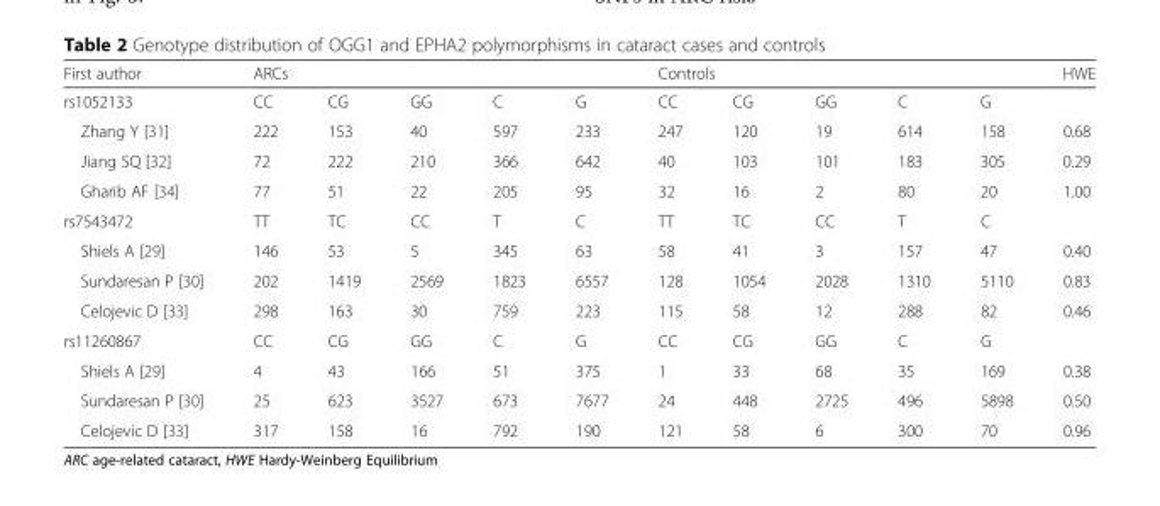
<table><thead><tr><td rowspan="2">First author rs1052133</td><td colspan="5">ARCs</td><td colspan="5">Controls</td><td rowspan="2">HWE</td></tr><tr><td>CC</td><td>CG</td><td>GG</td><td>C</td><td>G</td><td>CC</td><td>CG</td><td>GG</td><td>C</td><td>G</td></tr></thead><tbody><tr><td>Zhang Y [31]</td><td>222</td><td>153</td><td>40</td><td>597</td><td>233</td><td>247</td><td>120</td><td>19</td><td>614</td><td>158</td><td>0.68</td></tr><tr><td>Jiang SQ [32]</td><td>72</td><td>222</td><td>210</td><td>366</td><td>642</td><td>40</td><td>103</td><td>101</td><td>183</td><td>305</td><td>0.29</td></tr><tr><td>Gharib AF [34]</td><td>77</td><td>51</td><td>22</td><td>205</td><td>95</td><td>32</td><td>16</td><td>2</td><td>80</td><td>20</td><td>1.00</td></tr><tr><td>rs7543472</td><td>TT</td><td>TC</td><td>CC</td><td>T</td><td>C</td><td>TT</td><td>TC</td><td>CC</td><td>T</td><td>C</td><td></td></tr><tr><td>Shiels A [29]</td><td>146</td><td>53</td><td>5</td><td>345</td><td>63</td><td>58</td><td>41</td><td>3</td><td>157</td><td>47</td><td>0.40</td></tr><tr><td>Sundaresan P [30]</td><td>202</td><td>1419</td><td>2569</td><td>1823</td><td>6557</td><td>128</td><td>1054</td><td>2028</td><td>1310</td><td>5110</td><td>0.83</td></tr><tr><td>Celojevic D [33]</td><td>298</td><td>163</td><td>30</td><td>759</td><td>223</td><td>115</td><td>58</td><td>12</td><td>288</td><td>82</td><td>0.46</td></tr><tr><td>rs11260867</td><td>CC</td><td>CG</td><td>GG</td><td>C</td><td>G</td><td>CC</td><td>CG</td><td>GG</td><td>C</td><td>G</td><td></td></tr><tr><td>Shiels A [29]</td><td>4</td><td>43</td><td>166</td><td>51</td><td>375</td><td>1</td><td>33</td><td>68</td><td>35</td><td>169</td><td>0.38</td></tr><tr><td>Sundaresan P [30]</td><td>25</td><td>623</td><td>3527</td><td>673</td><td>7677</td><td>24</td><td>448</td><td>2725</td><td>496</td><td>5898</td><td>0.50</td></tr><tr><td>Celojevic D [33]</td><td>317</td><td>158</td><td>16</td><td>792</td><td>190</td><td>121</td><td>58</td><td>6</td><td>300</td><td>70</td><td>0.96</td></tr></tbody></table>